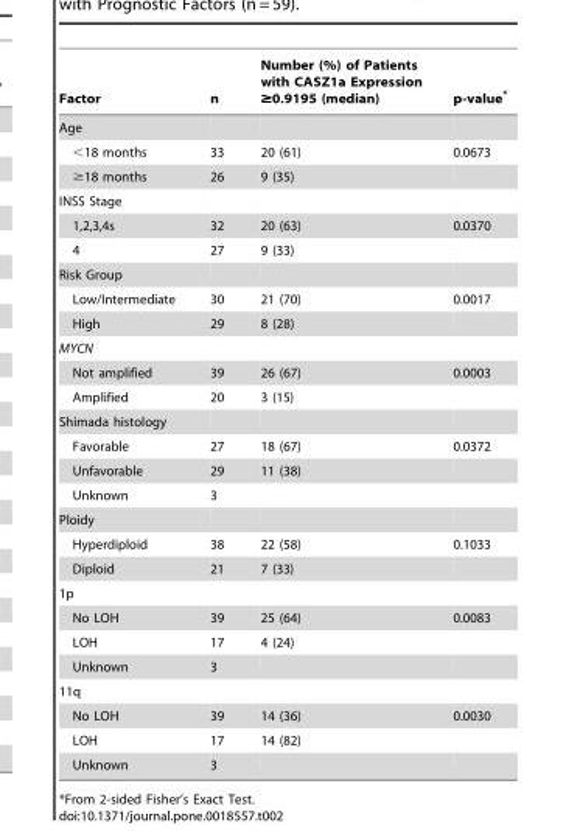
<table><thead><tr><td>Factor</td><td>n</td><td>Number (%) of Patients with CASZ1a Expression ≥0.9195 (median)</td><td>p-value*</td></tr></thead><tbody><tr><td colspan="4">Age</td></tr><tr><td>&lt;18 months</td><td>33</td><td>20 (61)</td><td>0.0673</td></tr><tr><td>≥18 months</td><td>26</td><td>9 (35)</td><td></td></tr><tr><td colspan="4">INSS Stage</td></tr><tr><td>1,2,3,4s</td><td>32</td><td>20 (63)</td><td>0.0370</td></tr><tr><td>4</td><td>27</td><td>9 (33)</td><td></td></tr><tr><td colspan="4">Risk Group</td></tr><tr><td>Low/Intermediate</td><td>30</td><td>21 (70)</td><td>0.0017</td></tr><tr><td>High</td><td>29</td><td>8 (28)</td><td></td></tr><tr><td colspan="4">MYCN</td></tr><tr><td>Not amplified</td><td>39</td><td>26 (67)</td><td>0.0003</td></tr><tr><td>Amplified</td><td>20</td><td>3 (15)</td><td></td></tr><tr><td colspan="4">Shimada histology</td></tr><tr><td>Favorable</td><td>27</td><td>18 (67)</td><td>0.0372</td></tr><tr><td>Unfavorable</td><td>29</td><td>11 (38)</td><td></td></tr><tr><td>Unknown</td><td>3</td><td></td><td></td></tr><tr><td colspan="4">Ploidy</td></tr><tr><td>Hyperdiploid</td><td>38</td><td>22 (58)</td><td>0.1033</td></tr><tr><td>Diploid</td><td>21</td><td>7 (33)</td><td></td></tr><tr><td colspan="4">1p</td></tr><tr><td>No LOH</td><td>39</td><td>25 (64)</td><td>0.0083</td></tr><tr><td>LOH</td><td>17</td><td>4 (24)</td><td></td></tr><tr><td>Unknown</td><td>3</td><td></td><td></td></tr><tr><td colspan="4">11q</td></tr><tr><td>No LOH</td><td>39</td><td>14 (36)</td><td>0.0030</td></tr><tr><td>LOH</td><td>17</td><td>14 (82)</td><td></td></tr><tr><td>Unknown</td><td>3</td><td></td><td></td></tr></tbody></table>